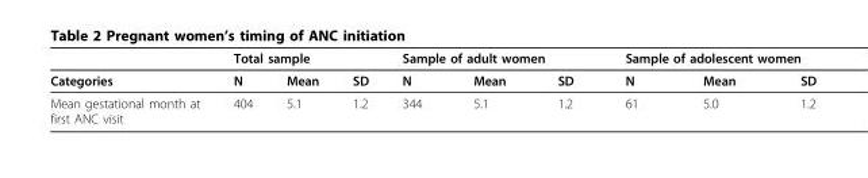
<table><thead><tr><td rowspan="2">Categories</td><td colspan="3">Total sample</td><td colspan="3">Sample of adult women</td><td colspan="3">Sample of adolescent women</td></tr><tr><td>N</td><td>Mean</td><td>SD</td><td>N</td><td>Mean</td><td>SD</td><td>N</td><td>Mean</td><td>SD</td></tr></thead><tbody><tr><td>Mean gestational month at first ANC visit</td><td>404</td><td>5.1</td><td>1.2</td><td>344</td><td>5.1</td><td>1.2</td><td>61</td><td>5.0</td><td>1.2</td></tr></tbody></table>